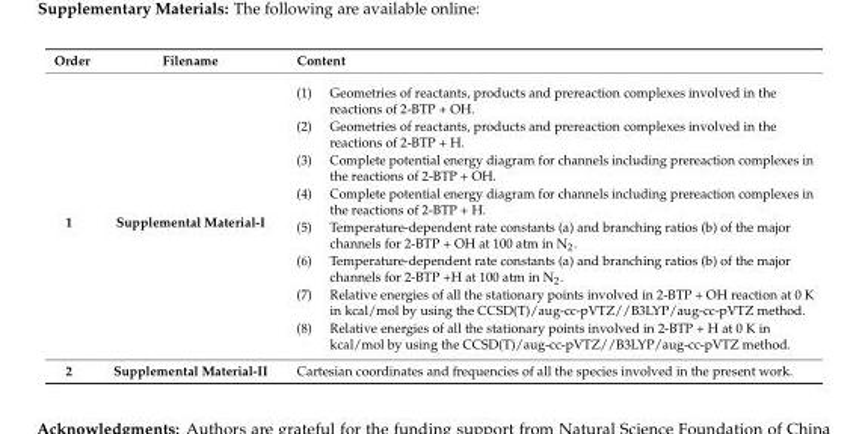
<table><thead><tr><td>Order</td><td>Filename</td><td>Content</td></tr></thead><tbody><tr><td>1</td><td>Supplemental Material-I</td><td>(1) Geometries of reactants, products and prereaction complexes involved in the reactions of 2-BTP + OH. (2) Geometries of reactants, products and prereaction complexes involved in the reactions of 2-BTP + H. (3) Complete potential energy diagram for channels including prereaction complexes in the reactions of 2-BTP + OH. (4) Complete potential energy diagram for channels including prereaction complexes in the reactions of 2-BTP + H. (5) Temperature-dependent rate constants (a) and branching ratios (b) of the major channels for 2-BTP + OH at 100 atm in N<sub>2</sub>. (6) Temperature-dependent rate constants (a) and branching ratios (b) of the major channels for 2-BTP +H at 100 atm in N<sub>2</sub>. (7) Relative energies of all the stationary points involved in 2-BTP + OH reaction at 0 K in kcal/mol by using the CCSD(T)/aug-cc-pVTZ//B3LYP/aug-cc-pVTZ method. (8) Relative energies of all the stationary points involved in 2-BTP + H at 0 K in kcal/mol by using the CCSD(T)/aug-cc-pVTZ//B3LYP/aug-cc-pVTZ method.</td></tr><tr><td>2</td><td>Supplemental Material-II</td><td>Cartesian coordinates and frequencies of all the species involved in the present work.</td></tr></tbody></table>